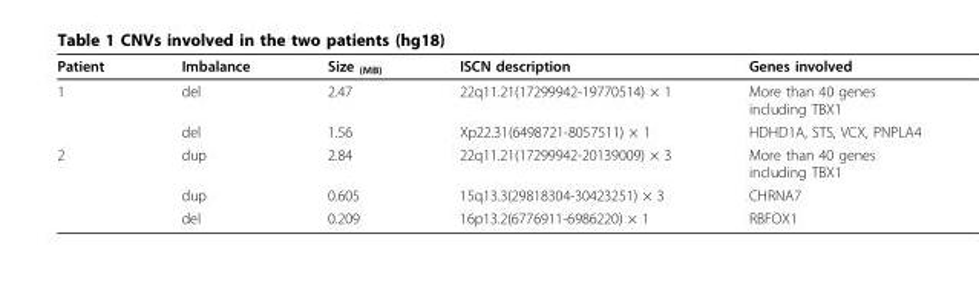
<table><thead><tr><td>Patient</td><td>Imbalance</td><td>Size <sub>(MB)</sub></td><td>ISCN description</td><td>Genes involved</td></tr></thead><tbody><tr><td rowspan="2">1</td><td>del</td><td>2.47</td><td>22q11.21(17299942-19770514) × 1</td><td>More than 40 genes including TBX1</td></tr><tr><td>del</td><td>1.56</td><td>Xp22.31(6498721-8057511) × 1</td><td>HDHD1A, STS, VCX, PNPLA4</td></tr><tr><td rowspan="3">2</td><td>dup</td><td>2.84</td><td>22q11.21(17299942-20139009) × 3</td><td>More than 40 genes including TBX1</td></tr><tr><td>dup</td><td>0.605</td><td>15q13.3(29818304-30423251) × 3</td><td>CHRNA7</td></tr><tr><td>del</td><td>0.209</td><td>16p13.2(6776911-6986220) × 1</td><td>RBFOX1</td></tr></tbody></table>